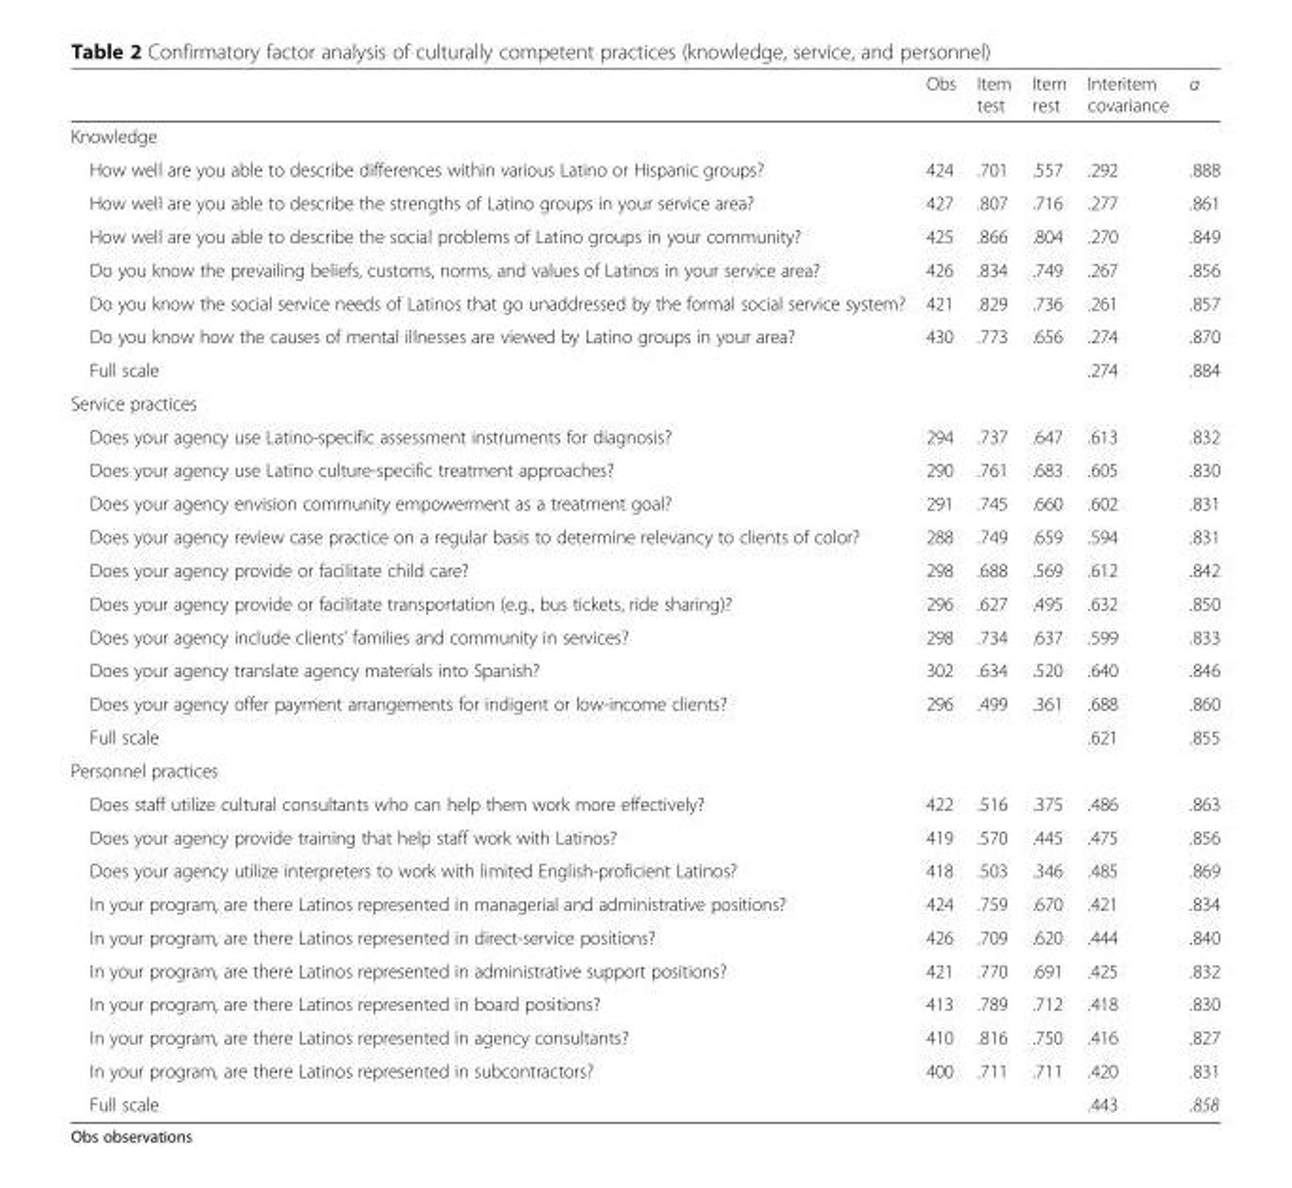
<table><thead><tr><td></td><td>Obs</td><td>Item test</td><td>Item rest</td><td>Interitem covariance</td><td>α</td></tr></thead><tbody><tr><td colspan="6">Knowledge</td></tr><tr><td>How well are you able to describe differences within various Latino or Hispanic groups?</td><td>424</td><td>.701</td><td>.557</td><td>.292</td><td>.888</td></tr><tr><td>How well are you able to describe the strengths of Latino groups in your service area?</td><td>427</td><td>.807</td><td>.716</td><td>.277</td><td>.861</td></tr><tr><td>How well are you able to describe the social problems of Latino groups in your community?</td><td>425</td><td>.866</td><td>.804</td><td>.270</td><td>.849</td></tr><tr><td>Do you know the prevailing beliefs, customs, norms, and values of Latinos in your service area?</td><td>426</td><td>.834</td><td>.749</td><td>.267</td><td>.856</td></tr><tr><td>Do you know the social service needs of Latinos that go unaddressed by the formal social service system?</td><td>421</td><td>.829</td><td>.736</td><td>.261</td><td>.857</td></tr><tr><td>Do you know how the causes of mental illnesses are viewed by Latino groups in your area?</td><td>430</td><td>.773</td><td>.656</td><td>.274</td><td>.870</td></tr><tr><td>Full scale</td><td></td><td></td><td></td><td>.274</td><td>.884</td></tr><tr><td colspan="6">Service practices</td></tr><tr><td>Does your agency use Latino-specific assessment instruments for diagnosis?</td><td>294</td><td>.737</td><td>.647</td><td>.613</td><td>.832</td></tr><tr><td>Does your agency use Latino culture-specific treatment approaches?</td><td>290</td><td>.761</td><td>.683</td><td>.605</td><td>.830</td></tr><tr><td>Does your agency envision community empowerment as a treatment goal?</td><td>291</td><td>.745</td><td>.660</td><td>.602</td><td>.831</td></tr><tr><td>Does your agency review case practice on a regular basis to determine relevancy to clients of color?</td><td>288</td><td>.749</td><td>.659</td><td>.594</td><td>.831</td></tr><tr><td>Does your agency provide or facilitate child care?</td><td>298</td><td>.688</td><td>.569</td><td>.612</td><td>.842</td></tr><tr><td>Does your agency provide or facilitate transportation (e.g., bus tickets, ride sharing)?</td><td>296</td><td>.627</td><td>.495</td><td>.632</td><td>.850</td></tr><tr><td>Does your agency include clients’ families and community in services?</td><td>298</td><td>.734</td><td>.637</td><td>.599</td><td>.833</td></tr><tr><td>Does your agency translate agency materials into Spanish?</td><td>302</td><td>.634</td><td>.520</td><td>.640</td><td>.846</td></tr><tr><td>Does your agency offer payment arrangements for indigent or low-income clients?</td><td>296</td><td>.499</td><td>.361</td><td>.688</td><td>.860</td></tr><tr><td>Full scale</td><td></td><td></td><td></td><td>.621</td><td>.855</td></tr><tr><td colspan="6">Personnel practices</td></tr><tr><td>Does staff utilize cultural consultants who can help them work more effectively?</td><td>422</td><td>.516</td><td>.375</td><td>.486</td><td>.863</td></tr><tr><td>Does your agency provide training that help staff work with Latinos?</td><td>419</td><td>.570</td><td>.445</td><td>.475</td><td>.856</td></tr><tr><td>Does your agency utilize interpreters to work with limited English-proficient Latinos?</td><td>418</td><td>.503</td><td>.346</td><td>.485</td><td>.869</td></tr><tr><td>In your program, are there Latinos represented in managerial and administrative positions?</td><td>424</td><td>.759</td><td>.670</td><td>.421</td><td>.834</td></tr><tr><td>In your program, are there Latinos represented in direct-service positions?</td><td>426</td><td>.709</td><td>.620</td><td>.444</td><td>.840</td></tr><tr><td>In your program, are there Latinos represented in administrative support positions?</td><td>421</td><td>.770</td><td>.691</td><td>.425</td><td>.832</td></tr><tr><td>In your program, are there Latinos represented in board positions?</td><td>413</td><td>.789</td><td>.712</td><td>.418</td><td>.830</td></tr><tr><td>In your program, are there Latinos represented in agency consultants?</td><td>410</td><td>.816</td><td>.750</td><td>.416</td><td>.827</td></tr><tr><td>In your program, are there Latinos represented in subcontractors?</td><td>400</td><td>.711</td><td>.711</td><td>.420</td><td>.831</td></tr><tr><td>Full scale</td><td></td><td></td><td></td><td>.443</td><td>.858</td></tr></tbody></table>